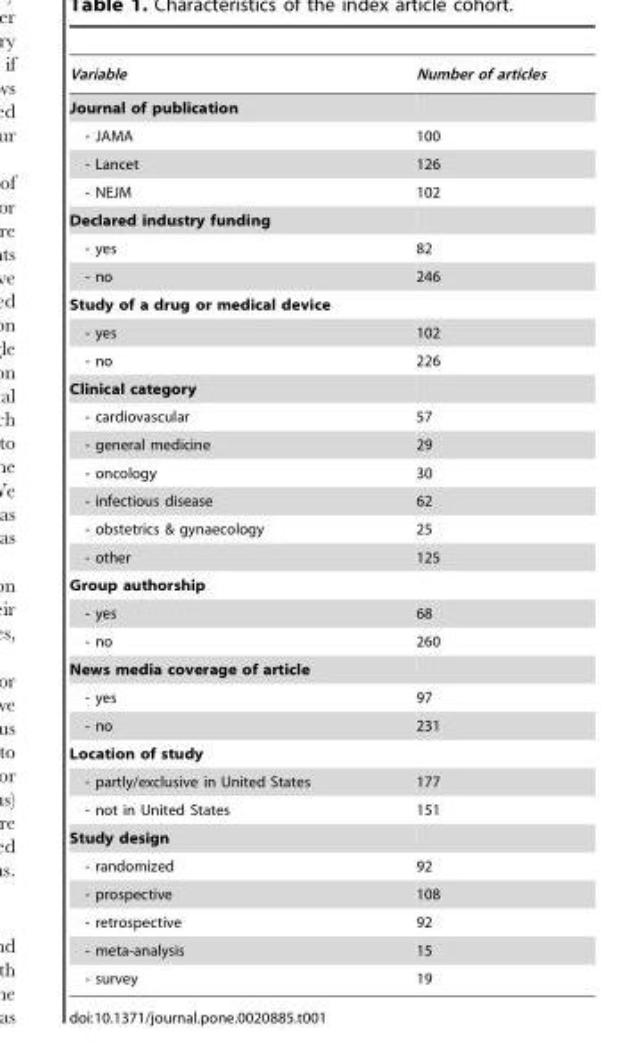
<table><thead><tr><td>Variable</td><td>Number of articles</td></tr></thead><tbody><tr><td colspan="2">Journal of publication</td></tr><tr><td>- JAMA</td><td>100</td></tr><tr><td>- Lancet</td><td>126</td></tr><tr><td>- NEJM</td><td>102</td></tr><tr><td colspan="2">Declared industry funding</td></tr><tr><td>- yes</td><td>82</td></tr><tr><td>- no</td><td>246</td></tr><tr><td colspan="2">Study of a drug or medical device</td></tr><tr><td>- yes</td><td>102</td></tr><tr><td>- no</td><td>226</td></tr><tr><td colspan="2">Clinical category</td></tr><tr><td>- cardiovascular</td><td>57</td></tr><tr><td>- general medicine</td><td>29</td></tr><tr><td>- oncology</td><td>30</td></tr><tr><td>- infectious disease</td><td>62</td></tr><tr><td>- obstetrics &amp; gynaecology</td><td>25</td></tr><tr><td>- other</td><td>125</td></tr><tr><td colspan="2">Group authorship</td></tr><tr><td>- yes</td><td>68</td></tr><tr><td>- no</td><td>260</td></tr><tr><td colspan="2">News media coverage of article</td></tr><tr><td>- yes</td><td>97</td></tr><tr><td>- no</td><td>231</td></tr><tr><td colspan="2">Location of study</td></tr><tr><td>- partly/exclusive in United States</td><td>177</td></tr><tr><td>- not in United States</td><td>151</td></tr><tr><td colspan="2">Study design</td></tr><tr><td>- randomized</td><td>92</td></tr><tr><td>- prospective</td><td>108</td></tr><tr><td>- retrospective</td><td>92</td></tr><tr><td>- meta-analysis</td><td>15</td></tr><tr><td>- survey</td><td>19</td></tr></tbody></table>